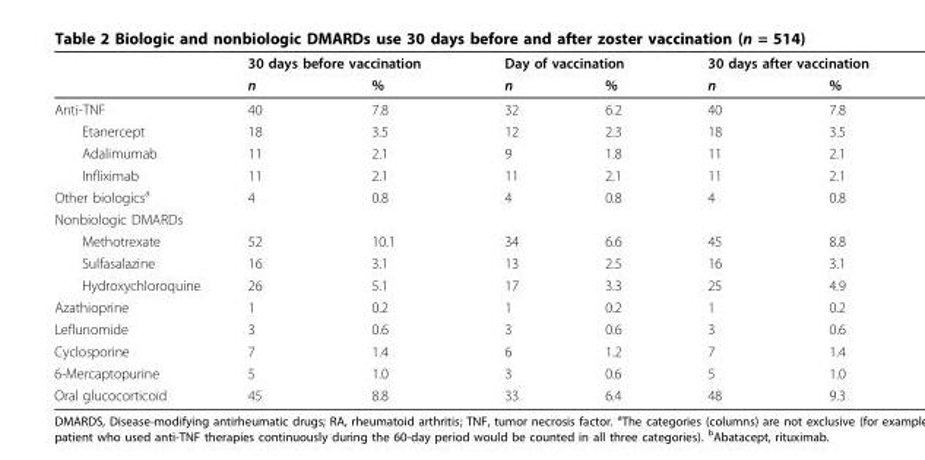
<table><thead><tr><td rowspan="2"></td><td colspan="2">30 days before vaccination</td><td colspan="2">Day of vaccination</td><td colspan="2">30 days after vaccination</td></tr><tr><td>n</td><td>%</td><td>n</td><td>%</td><td>n</td><td>%</td></tr></thead><tbody><tr><td>Anti-TNF</td><td>40</td><td>7.8</td><td>32</td><td>6.2</td><td>40</td><td>7.8</td></tr><tr><td>Etanercept</td><td>18</td><td>3.5</td><td>12</td><td>2.3</td><td>18</td><td>3.5</td></tr><tr><td>Adalimumab</td><td>11</td><td>2.1</td><td>9</td><td>1.8</td><td>11</td><td>2.1</td></tr><tr><td>Infliximab</td><td>11</td><td>2.1</td><td>11</td><td>2.1</td><td>11</td><td>2.1</td></tr><tr><td>Other biologics<sup>a</sup></td><td>4</td><td>0.8</td><td>4</td><td>0.8</td><td>4</td><td>0.8</td></tr><tr><td colspan="7">Nonbiologic DMARDs</td></tr><tr><td>Methotrexate</td><td>52</td><td>10.1</td><td>34</td><td>6.6</td><td>45</td><td>8.8</td></tr><tr><td>Sulfasalazine</td><td>16</td><td>3.1</td><td>13</td><td>2.5</td><td>16</td><td>3.1</td></tr><tr><td>Hydroxychloroquine</td><td>26</td><td>5.1</td><td>17</td><td>3.3</td><td>25</td><td>4.9</td></tr><tr><td>Azathioprine</td><td>1</td><td>0.2</td><td>1</td><td>0.2</td><td>1</td><td>0.2</td></tr><tr><td>Leflunomide</td><td>3</td><td>0.6</td><td>3</td><td>0.6</td><td>3</td><td>0.6</td></tr><tr><td>Cyclosporine</td><td>7</td><td>1.4</td><td>6</td><td>1.2</td><td>7</td><td>1.4</td></tr><tr><td>6-Mercaptopurine</td><td>5</td><td>1.0</td><td>3</td><td>0.6</td><td>5</td><td>1.0</td></tr><tr><td>Oral glucocorticoid</td><td>45</td><td>8.8</td><td>33</td><td>6.4</td><td>48</td><td>9.3</td></tr></tbody></table>